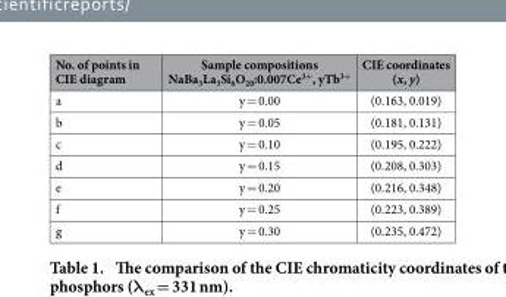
<table><thead><tr><td>No. of points in CIE diagram</td><td>Sample compositions NaBa<sub>3</sub>La<sub>3</sub>Si<sub>6</sub>O<sub>20</sub>:0.007Ce<sup>3+</sup>, yTb<sup>3+</sup></td><td>CIE coordinates (x, y)</td></tr></thead><tbody><tr><td>a</td><td>y = 0.00</td><td>(0.163, 0.019)</td></tr><tr><td>b</td><td>y = 0.05</td><td>(0.181, 0.131)</td></tr><tr><td>c</td><td>y = 0.10</td><td>(0.195, 0.222)</td></tr><tr><td>d</td><td>y = 0.15</td><td>(0.208, 0.303)</td></tr><tr><td>e</td><td>y = 0.20</td><td>(0.216, 0.348)</td></tr><tr><td>f</td><td>y = 0.25</td><td>(0.223, 0.389)</td></tr><tr><td>g</td><td>y = 0.30</td><td>(0.235, 0.472)</td></tr></tbody></table>